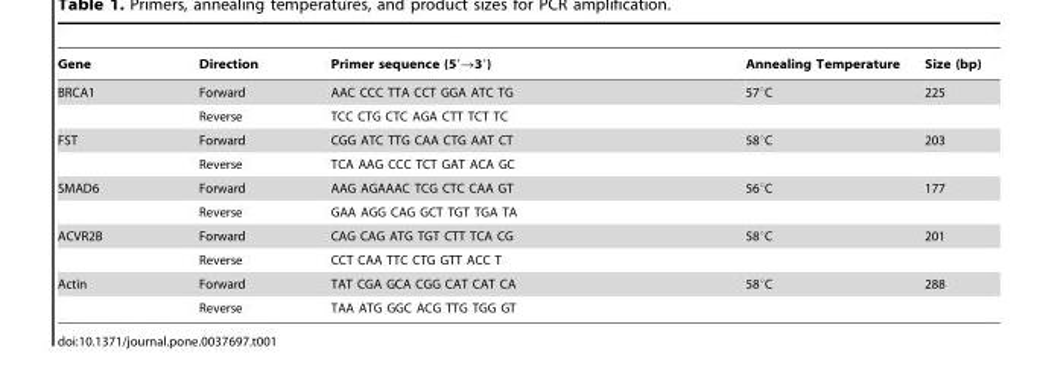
<table><thead><tr><td>Gene</td><td>Direction</td><td>Primer sequence (5′→3′)</td><td>Annealing Temperature</td><td>Size (bp)</td></tr></thead><tbody><tr><td rowspan="2">BRCA1</td><td>Forward</td><td>AAC CCC TTA CCT GGA ATC TG</td><td>57°C</td><td>225</td></tr><tr><td>Reverse</td><td>TCC CTG CTC AGA CTT TCT TC</td><td></td><td></td></tr><tr><td rowspan="2">FST</td><td>Forward</td><td>CGG ATC TTG CAA CTG AAT CT</td><td>58°C</td><td>203</td></tr><tr><td>Reverse</td><td>TCA AAG CCC TCT GAT ACA GC</td><td></td><td></td></tr><tr><td rowspan="2">SMAD6</td><td>Forward</td><td>AAG AGAAAC TCG CTC CAA GT</td><td>56°C</td><td>177</td></tr><tr><td>Reverse</td><td>GAA AGG CAG GCT TGT TGA TA</td><td></td><td></td></tr><tr><td rowspan="2">ACVR2B</td><td>Forward</td><td>CAG CAG ATG TGT CTT TCA CG</td><td>58°C</td><td>201</td></tr><tr><td>Reverse</td><td>CCT CAA TTC CTG GTT ACC T</td><td></td><td></td></tr><tr><td rowspan="2">Actin</td><td>Forward</td><td>TAT CGA GCA CGG CAT CAT CA</td><td>58°C</td><td>288</td></tr><tr><td>Reverse</td><td>TAA ATG GGC ACG TTG TGG GT</td><td></td><td></td></tr></tbody></table>